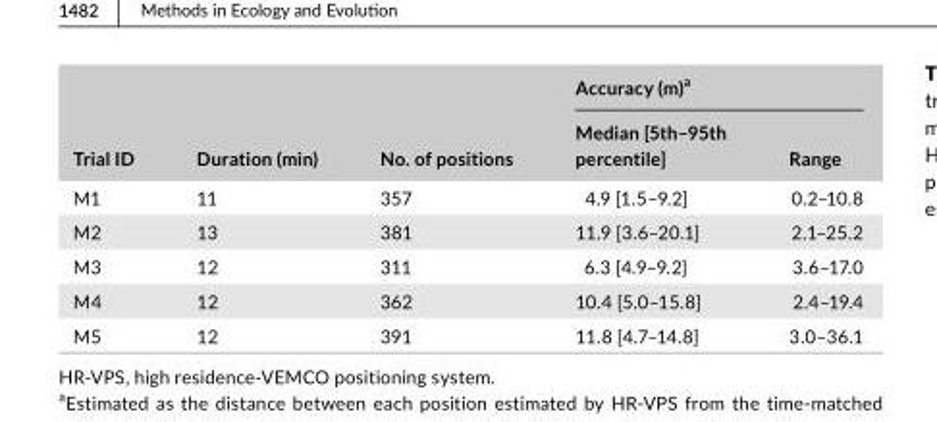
<table><thead><tr><td rowspan="2">Trial ID</td><td rowspan="2">Duration (min)</td><td rowspan="2">No. of positions</td><td colspan="2">Accuracy (m)<sup>a</sup></td></tr><tr><td>Median [5th–95th percentile]</td><td>Range</td></tr></thead><tbody><tr><td>M1</td><td>11</td><td>357</td><td>4.9 [1.5–9.2]</td><td>0.2–10.8</td></tr><tr><td>M2</td><td>13</td><td>381</td><td>11.9 [3.6–20.1]</td><td>2.1–25.2</td></tr><tr><td>M3</td><td>12</td><td>311</td><td>6.3 [4.9–9.2]</td><td>3.6–17.0</td></tr><tr><td>M4</td><td>12</td><td>362</td><td>10.4 [5.0–15.8]</td><td>2.4–19.4</td></tr><tr><td>M5</td><td>12</td><td>391</td><td>11.8 [4.7–14.8]</td><td>3.0–36.1</td></tr></tbody></table>